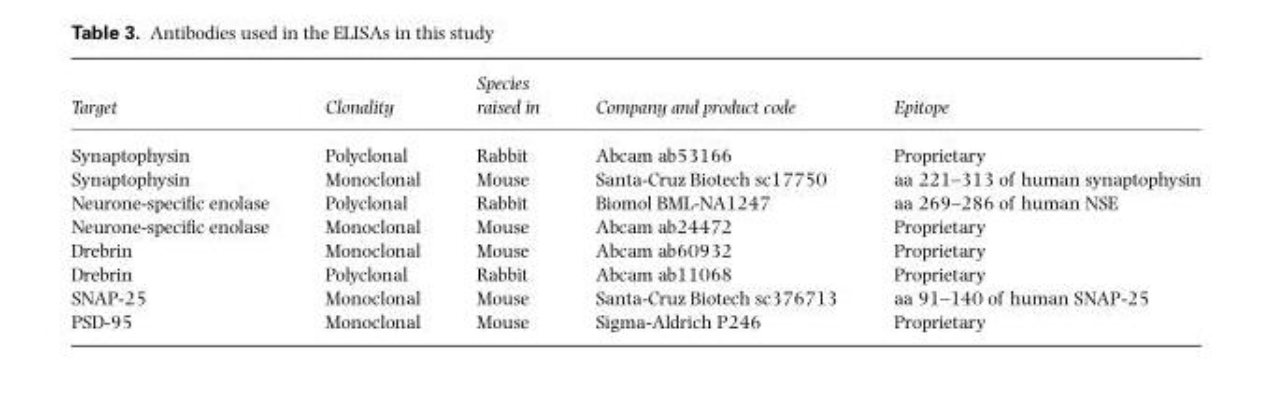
<table><thead><tr><td>Target</td><td>Clonality</td><td>Species raised in</td><td>Company and product code</td><td>Epitope</td></tr></thead><tbody><tr><td>Synaptophysin</td><td>Polyclonal</td><td>Rabbit</td><td>Abcam ab53166</td><td>Proprietary</td></tr><tr><td>Synaptophysin</td><td>Monoclonal</td><td>Mouse</td><td>Santa-Cruz Biotech sc17750</td><td>aa 221–313 of human synaptophysin</td></tr><tr><td>Neurone-specific enolase</td><td>Polyclonal</td><td>Rabbit</td><td>Biomol BML-NA1247</td><td>aa 269–286 of human NSE</td></tr><tr><td>Neurone-specific enolase</td><td>Monoclonal</td><td>Mouse</td><td>Abcam ab24472</td><td>Proprietary</td></tr><tr><td>Drebrin</td><td>Monoclonal</td><td>Mouse</td><td>Abcam ab60932</td><td>Proprietary</td></tr><tr><td>Drebrin</td><td>Polyclonal</td><td>Rabbit</td><td>Abcam ab11068</td><td>Proprietary</td></tr><tr><td>SNAP-25</td><td>Monoclonal</td><td>Mouse</td><td>Santa-Cruz Biotech sc376713</td><td>aa 91–140 of human SNAP-25</td></tr><tr><td>PSD-95</td><td>Monoclonal</td><td>Mouse</td><td>Sigma-Aldrich P246</td><td>Proprietary</td></tr></tbody></table>